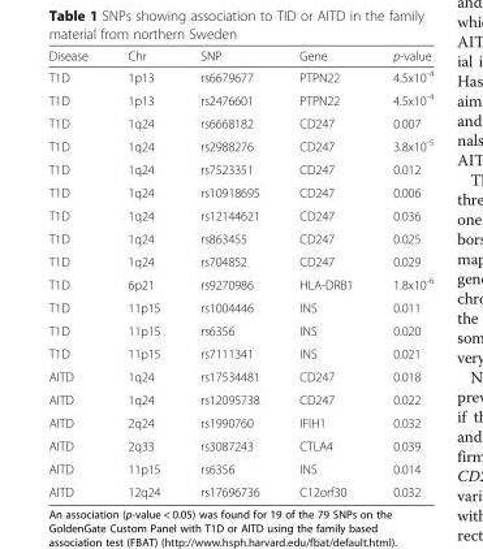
<table><thead><tr><td>Disease</td><td>Chr</td><td>SNP</td><td>Gene</td><td>p-value</td></tr></thead><tbody><tr><td>T1D</td><td>1p13</td><td>rs6679677</td><td>PTPN22</td><td>4.5x10<sup>-4</sup></td></tr><tr><td>T1D</td><td>1p13</td><td>rs2476601</td><td>PTPN22</td><td>4.5x10<sup>-4</sup></td></tr><tr><td>T1D</td><td>1q24</td><td>rs6668182</td><td>CD247</td><td>0.007</td></tr><tr><td>T1D</td><td>1q24</td><td>rs2988276</td><td>CD247</td><td>3.8x10<sup>-5</sup></td></tr><tr><td>T1D</td><td>1q24</td><td>rs7523351</td><td>CD247</td><td>0.012</td></tr><tr><td>T1D</td><td>1q24</td><td>rs10918695</td><td>CD247</td><td>0.006</td></tr><tr><td>T1D</td><td>1q24</td><td>rs12144621</td><td>CD247</td><td>0.036</td></tr><tr><td>T1D</td><td>1q24</td><td>rs863455</td><td>CD247</td><td>0.025</td></tr><tr><td>T1D</td><td>1q24</td><td>rs704852</td><td>CD247</td><td>0.029</td></tr><tr><td>T1D</td><td>6p21</td><td>rs9270986</td><td>HLA-DRB1</td><td>1.8x10<sup>-6</sup></td></tr><tr><td>T1D</td><td>11p15</td><td>rs1004446</td><td>INS</td><td>0.011</td></tr><tr><td>T1D</td><td>11p15</td><td>rs6356</td><td>INS</td><td>0.020</td></tr><tr><td>T1D</td><td>11p15</td><td>rs7111341</td><td>INS</td><td>0.021</td></tr><tr><td>AITD</td><td>1q24</td><td>rs17534481</td><td>CD247</td><td>0.018</td></tr><tr><td>AITD</td><td>1q24</td><td>rs12095738</td><td>CD247</td><td>0.022</td></tr><tr><td>AITD</td><td>2q24</td><td>rs1990760</td><td>IFIH1</td><td>0.032</td></tr><tr><td>AITD</td><td>2q33</td><td>rs3087243</td><td>CTLA4</td><td>0.039</td></tr><tr><td>AITD</td><td>11p15</td><td>rs6356</td><td>INS</td><td>0.014</td></tr><tr><td>AITD</td><td>12q24</td><td>rs17696736</td><td>C12orf30</td><td>0.032</td></tr></tbody></table>